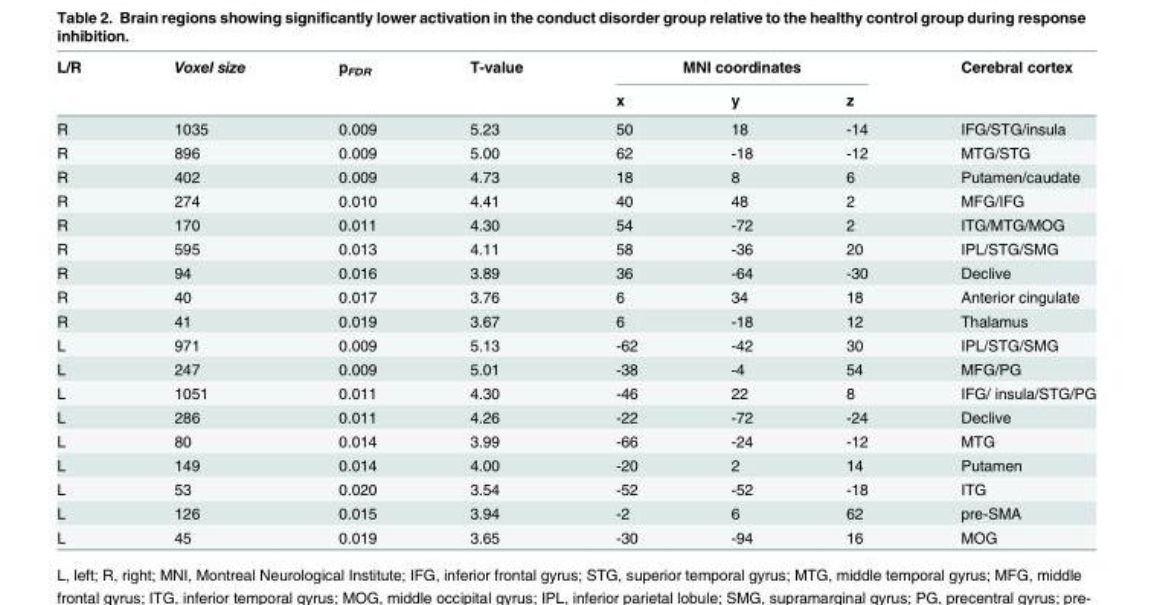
<table><thead><tr><td rowspan="2">L/R</td><td rowspan="2">Voxel size</td><td rowspan="2">p<sub>FDR</sub></td><td rowspan="2">T-value</td><td colspan="3">MNI coordinates</td><td rowspan="2">Cerebral cortex</td></tr><tr><td>x</td><td>y</td><td>z</td></tr></thead><tbody><tr><td>R</td><td>1035</td><td>0.009</td><td>5.23</td><td>50</td><td>18</td><td>-14</td><td>IFG/STG/insula</td></tr><tr><td>R</td><td>896</td><td>0.009</td><td>5.00</td><td>62</td><td>-18</td><td>-12</td><td>MTG/STG</td></tr><tr><td>R</td><td>402</td><td>0.009</td><td>4.73</td><td>18</td><td>8</td><td>6</td><td>Putamen/caudate</td></tr><tr><td>R</td><td>274</td><td>0.010</td><td>4.41</td><td>40</td><td>48</td><td>2</td><td>MFG/IFG</td></tr><tr><td>R</td><td>170</td><td>0.011</td><td>4.30</td><td>54</td><td>-72</td><td>2</td><td>ITG/MTG/MOG</td></tr><tr><td>R</td><td>595</td><td>0.013</td><td>4.11</td><td>58</td><td>-36</td><td>20</td><td>IPL/STG/SMG</td></tr><tr><td>R</td><td>94</td><td>0.016</td><td>3.89</td><td>36</td><td>-64</td><td>-30</td><td>Declive</td></tr><tr><td>R</td><td>40</td><td>0.017</td><td>3.76</td><td>6</td><td>34</td><td>18</td><td>Anterior cingulate</td></tr><tr><td>R</td><td>41</td><td>0.019</td><td>3.67</td><td>6</td><td>-18</td><td>12</td><td>Thalamus</td></tr><tr><td>L</td><td>971</td><td>0.009</td><td>5.13</td><td>-62</td><td>-42</td><td>30</td><td>IPL/STG/SMG</td></tr><tr><td>L</td><td>247</td><td>0.009</td><td>5.01</td><td>-38</td><td>-4</td><td>54</td><td>MFG/PG</td></tr><tr><td>L</td><td>1051</td><td>0.011</td><td>4.30</td><td>-46</td><td>22</td><td>8</td><td>IFG/ insula/STG/PG</td></tr><tr><td>L</td><td>286</td><td>0.011</td><td>4.26</td><td>-22</td><td>-72</td><td>-24</td><td>Declive</td></tr><tr><td>L</td><td>80</td><td>0.014</td><td>3.99</td><td>-66</td><td>-24</td><td>-12</td><td>MTG</td></tr><tr><td>L</td><td>149</td><td>0.014</td><td>4.00</td><td>-20</td><td>2</td><td>14</td><td>Putamen</td></tr><tr><td>L</td><td>53</td><td>0.020</td><td>3.54</td><td>-52</td><td>-52</td><td>-18</td><td>ITG</td></tr><tr><td>L</td><td>126</td><td>0.015</td><td>3.94</td><td>-2</td><td>6</td><td>62</td><td>pre-SMA</td></tr><tr><td>L</td><td>45</td><td>0.019</td><td>3.65</td><td>-30</td><td>-94</td><td>16</td><td>MOG</td></tr></tbody></table>